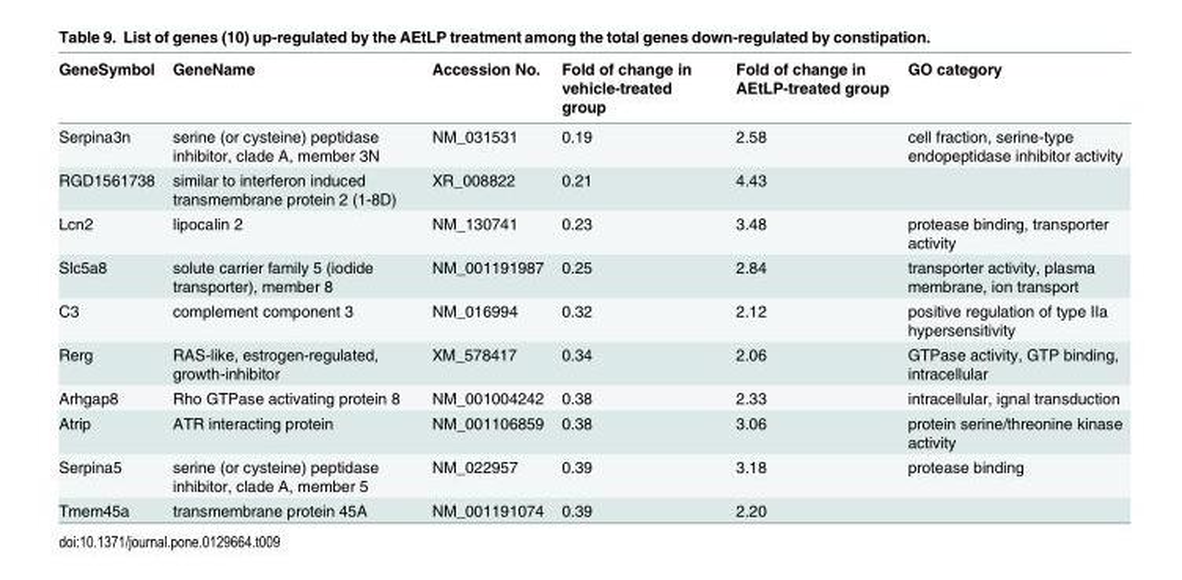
<table><thead><tr><td>GeneSymbol</td><td>GeneName</td><td>Accession No.</td><td>Fold of change in vehicle-treated group</td><td>Fold of change in AEtLP-treated group</td><td>GO category</td></tr></thead><tbody><tr><td>Serpina3n</td><td>serine (or cysteine) peptidase inhibitor, clade A, member 3N</td><td>NM_031531</td><td>0.19</td><td>2.58</td><td>cell fraction, serine-type endopeptidase inhibitor activity</td></tr><tr><td>RGD1561738</td><td>similar to interferon induced transmembrane protein 2 (1-8D)</td><td>XR_008822</td><td>0.21</td><td>4.43</td><td></td></tr><tr><td>Lcn2</td><td>lipocalin 2</td><td>NM_130741</td><td>0.23</td><td>3.48</td><td>protease binding, transporter activity</td></tr><tr><td>Slc5a8</td><td>solute carrier family 5 (iodide transporter), member 8</td><td>NM_001191987</td><td>0.25</td><td>2.84</td><td>transporter activity, plasma membrane, ion transport</td></tr><tr><td>C3</td><td>complement component 3</td><td>NM_016994</td><td>0.32</td><td>2.12</td><td>positive regulation of type IIa hypersensitivity</td></tr><tr><td>Rerg</td><td>RAS-like, estrogen-regulated, growth-inhibitor</td><td>XM_578417</td><td>0.34</td><td>2.06</td><td>GTPase activity, GTP binding, intracellular</td></tr><tr><td>Arhgap8</td><td>Rho GTPase activating protein 8</td><td>NM_001004242</td><td>0.38</td><td>2.33</td><td>intracellular, ignal transduction</td></tr><tr><td>Atrip</td><td>ATR interacting protein</td><td>NM_001106859</td><td>0.38</td><td>3.06</td><td>protein serine/threonine kinase activity</td></tr><tr><td>Serpina5</td><td>serine (or cysteine) peptidase inhibitor, clade A, member 5</td><td>NM_022957</td><td>0.39</td><td>3.18</td><td>protease binding</td></tr><tr><td>Tmem45a</td><td>transmembrane protein 45A</td><td>NM_001191074</td><td>0.39</td><td>2.20</td><td></td></tr></tbody></table>